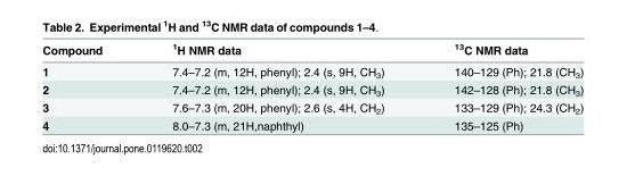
<table><thead><tr><td>Compound</td><td><sup>1</sup>H NMR data</td><td><sup>13</sup>C NMR data</td></tr></thead><tbody><tr><td>1</td><td>7.4–7.2 (m, 12H, phenyl); 2.4 (s, 9H, CH<sub>3</sub>)</td><td>140–129 (Ph); 21.8 (CH<sub>3</sub>)</td></tr><tr><td>2</td><td>7.4–7.2 (m, 12H, phenyl); 2.4 (s, 9H, CH<sub>3</sub>)</td><td>142–128 (Ph); 21.8 (CH<sub>3</sub>)</td></tr><tr><td>3</td><td>7.6–7.3 (m, 20H, phenyl); 2.6 (s, 4H, CH<sub>2</sub>)</td><td>133–129 (Ph); 24.3 (CH<sub>2</sub>)</td></tr><tr><td>4</td><td>8.0–7.3 (m, 21H,naphthyl)</td><td>135–125 (Ph)</td></tr></tbody></table>